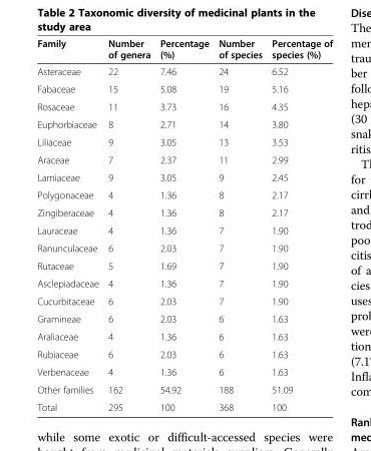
<table><thead><tr><td>Family</td><td>Number of genera</td><td>Percentage (%)</td><td>Number of species</td><td>Percentage of species (%)</td></tr></thead><tbody><tr><td>Asteraceae</td><td>22</td><td>7.46</td><td>24</td><td>6.52</td></tr><tr><td>Fabaceae</td><td>15</td><td>5.08</td><td>19</td><td>5.16</td></tr><tr><td>Rosaceae</td><td>11</td><td>3.73</td><td>16</td><td>4.35</td></tr><tr><td>Euphorbiaceae</td><td>8</td><td>2.71</td><td>14</td><td>3.80</td></tr><tr><td>Liliaceae</td><td>9</td><td>3.05</td><td>13</td><td>3.53</td></tr><tr><td>Araceae</td><td>7</td><td>2.37</td><td>11</td><td>2.99</td></tr><tr><td>Lamiaceae</td><td>9</td><td>3.05</td><td>9</td><td>2.45</td></tr><tr><td>Polygonaceae</td><td>4</td><td>1.36</td><td>8</td><td>2.17</td></tr><tr><td>Zingiberaceae</td><td>4</td><td>1.36</td><td>8</td><td>2.17</td></tr><tr><td>Lauraceae</td><td>4</td><td>1.36</td><td>7</td><td>1.90</td></tr><tr><td>Ranunculaceae</td><td>6</td><td>2.03</td><td>7</td><td>1.90</td></tr><tr><td>Rutaceae</td><td>5</td><td>1.69</td><td>7</td><td>1.90</td></tr><tr><td>Asclepiadaceae</td><td>4</td><td>1.36</td><td>7</td><td>1.90</td></tr><tr><td>Cucurbitaceae</td><td>6</td><td>2.03</td><td>7</td><td>1.90</td></tr><tr><td>Gramineae</td><td>6</td><td>2.03</td><td>6</td><td>1.63</td></tr><tr><td>Araliaceae</td><td>4</td><td>1.36</td><td>6</td><td>1.63</td></tr><tr><td>Rubiaceae</td><td>6</td><td>2.03</td><td>6</td><td>1.63</td></tr><tr><td>Verbenaceae</td><td>4</td><td>1.36</td><td>6</td><td>1.63</td></tr><tr><td>Other families</td><td>162</td><td>54.92</td><td>188</td><td>51.09</td></tr><tr><td>Total</td><td>295</td><td>100</td><td>368</td><td>100</td></tr></tbody></table>